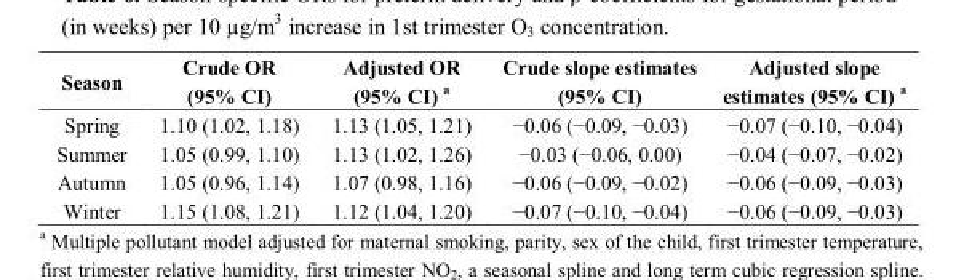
<table><thead><tr><td>Season</td><td>Crude OR (95% CI)</td><td>Adjusted OR (95% CI) <sup>a</sup></td><td>Crude slope estimates (95% CI)</td><td>Adjusted slope estimates (95% CI) <sup>a</sup></td></tr></thead><tbody><tr><td>Spring</td><td>1.10 (1.02, 1.18)</td><td>1.13 (1.05, 1.21)</td><td>−0.06 (−0.09, −0.03)</td><td>−0.07 (−0.10, −0.04)</td></tr><tr><td>Summer</td><td>1.05 (0.99, 1.10)</td><td>1.13 (1.02, 1.26)</td><td>−0.03 (−0.06, 0.00)</td><td>−0.04 (−0.07, −0.02)</td></tr><tr><td>Autumn</td><td>1.05 (0.96, 1.14)</td><td>1.07 (0.98, 1.16)</td><td>−0.06 (−0.09, −0.02)</td><td>−0.06 (−0.09, −0.03)</td></tr><tr><td>Winter</td><td>1.15 (1.08, 1.21)</td><td>1.12 (1.04, 1.20)</td><td>−0.07 (−0.10, −0.04)</td><td>−0.06 (−0.09, −0.03)</td></tr></tbody></table>